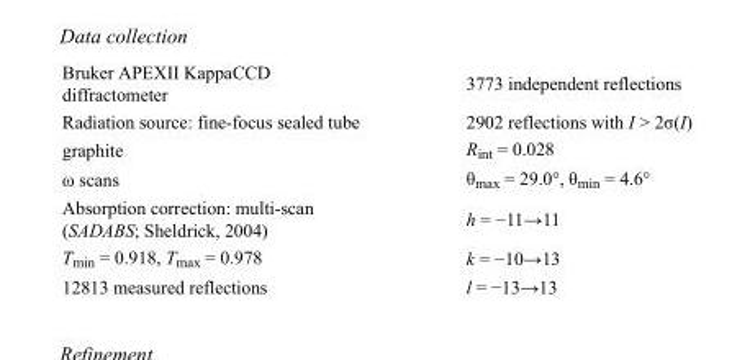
<table><tbody><tr><td>Bruker APEXII KappaCCD diffractometer</td><td>3773 independent reflections</td></tr><tr><td>Radiation source: fine-focus sealed tube</td><td>2902 reflections with I &gt; 2σ(I)</td></tr><tr><td>graphite</td><td>R<sub>int</sub> = 0.028</td></tr><tr><td>ω scans</td><td>θ<sub>max</sub> = 29.0°, θ<sub>min</sub> = 4.6°</td></tr><tr><td>Absorption correction: multi-scan (SADABS; Sheldrick, 2004)</td><td>h = −11→11</td></tr><tr><td>T<sub>min</sub> = 0.918, T<sub>max</sub> = 0.978</td><td>k = −10→13</td></tr><tr><td>12813 measured reflections</td><td>l = −13→13</td></tr></tbody></table>